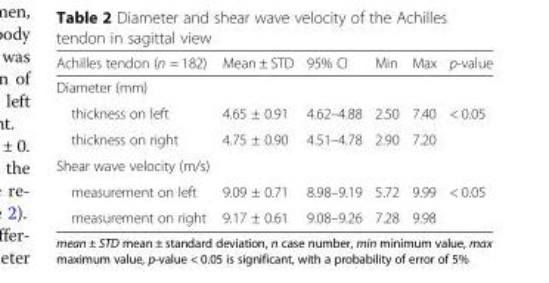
<table><thead><tr><td>Achilles tendon (n = 182)</td><td>Mean ± STD</td><td>95% CI</td><td>Min</td><td>Max</td><td>p-value</td></tr></thead><tbody><tr><td colspan="6">Diameter (mm)</td></tr><tr><td>thickness on left</td><td>4.65 ± 0.91</td><td>4.62–4.88</td><td>2.50</td><td>7.40</td><td rowspan="2">&lt; 0.05</td></tr><tr><td>thickness on right</td><td>4.75 ± 0.90</td><td>4.51–4.78</td><td>2.90</td><td>7.20</td></tr><tr><td colspan="6">Shear wave velocity (m/s)</td></tr><tr><td>measurement on left</td><td>9.09 ± 0.71</td><td>8.98–9.19</td><td>5.72</td><td>9.99</td><td rowspan="2">&lt; 0.05</td></tr><tr><td>measurement on right</td><td>9.17 ± 0.61</td><td>9.08–9.26</td><td>7.28</td><td>9.98</td></tr></tbody></table>